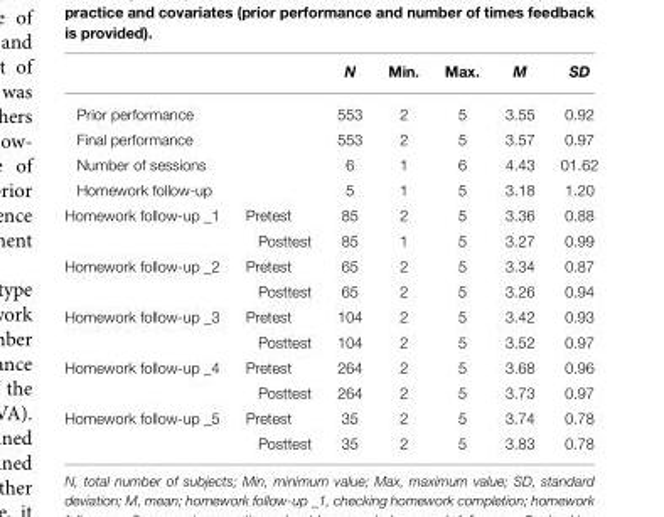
<table><thead><tr><td></td><td></td><td>N</td><td>Min.</td><td>Max.</td><td>M</td><td>SD</td></tr></thead><tbody><tr><td>Prior performance</td><td></td><td>553</td><td>2</td><td>5</td><td>3.55</td><td>0.92</td></tr><tr><td>Final performance</td><td></td><td>553</td><td>2</td><td>5</td><td>3.57</td><td>0.97</td></tr><tr><td>Number of sessions</td><td></td><td>6</td><td>1</td><td>6</td><td>4.43</td><td>01.62</td></tr><tr><td>Homework follow-up</td><td></td><td>5</td><td>1</td><td>5</td><td>3.18</td><td>1.20</td></tr><tr><td rowspan="2">Homework follow-up _1</td><td>Pretest</td><td>85</td><td>2</td><td>5</td><td>3.36</td><td>0.88</td></tr><tr><td>Posttest</td><td>85</td><td>1</td><td>5</td><td>3.27</td><td>0.99</td></tr><tr><td rowspan="2">Homework follow-up _2</td><td>Pretest</td><td>65</td><td>2</td><td>5</td><td>3.34</td><td>0.87</td></tr><tr><td>Posttest</td><td>65</td><td>2</td><td>5</td><td>3.26</td><td>0.94</td></tr><tr><td rowspan="2">Homework follow-up _3</td><td>Pretest</td><td>104</td><td>2</td><td>5</td><td>3.42</td><td>0.93</td></tr><tr><td>Posttest</td><td>104</td><td>2</td><td>5</td><td>3.52</td><td>0.97</td></tr><tr><td rowspan="2">Homework follow-up _4</td><td>Pretest</td><td>264</td><td>2</td><td>5</td><td>3.68</td><td>0.96</td></tr><tr><td>Posttest</td><td>264</td><td>2</td><td>5</td><td>3.73</td><td>0.97</td></tr><tr><td rowspan="2">Homework follow-up _5</td><td>Pretest</td><td>35</td><td>2</td><td>5</td><td>3.74</td><td>0.78</td></tr><tr><td>Posttest</td><td>35</td><td>2</td><td>5</td><td>3.83</td><td>0.78</td></tr></tbody></table>